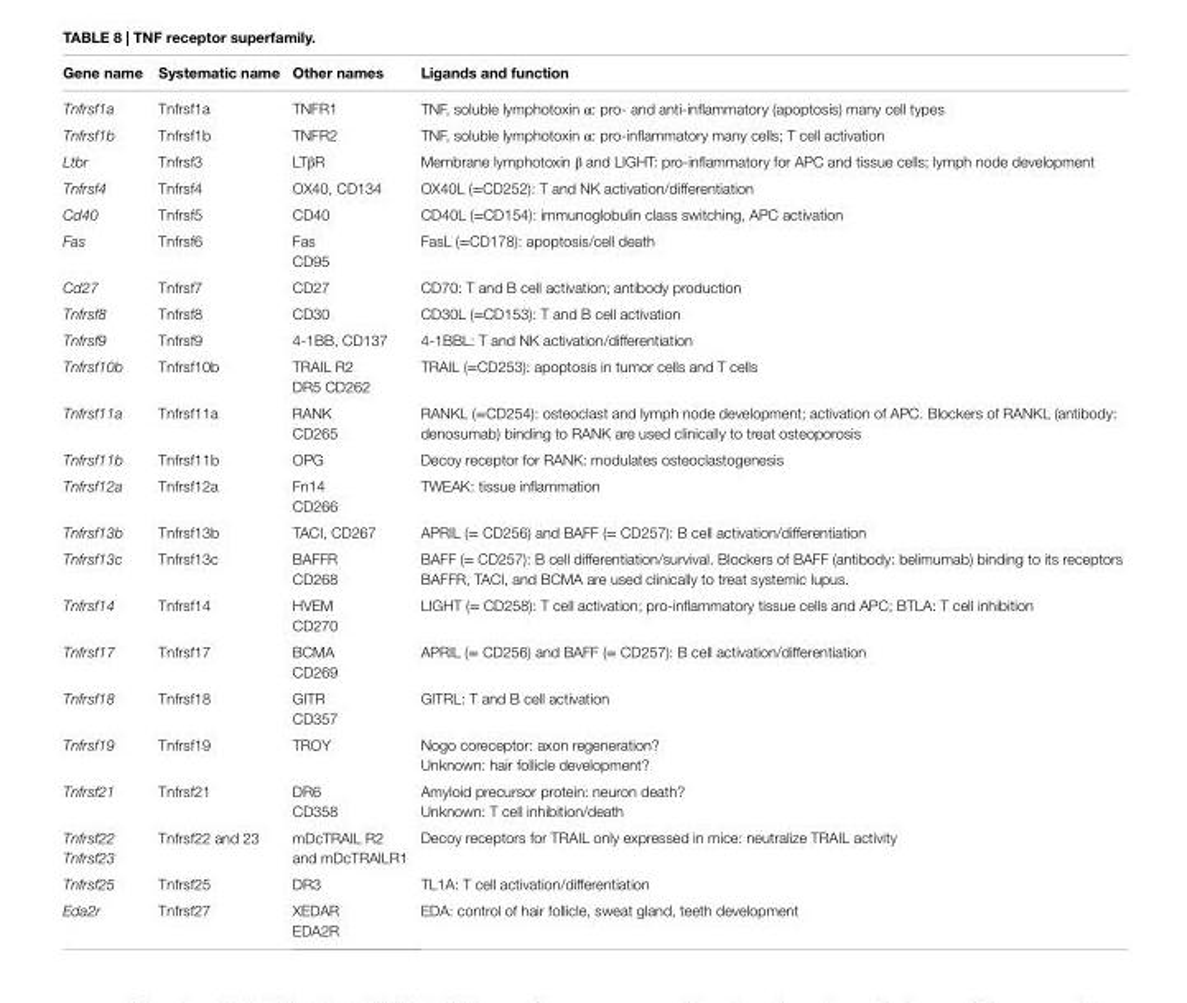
<table><thead><tr><td>Gene name</td><td>Systematic name</td><td>Other names</td><td>Ligands and function</td></tr></thead><tbody><tr><td>Tnfrsf1a</td><td>Tnfrsf1a</td><td>TNFR1</td><td>TNF, soluble lymphotoxin α: pro- and anti-inflammatory (apoptosis) many cell types</td></tr><tr><td>Tnfrsf1b</td><td>Tnfrsf1b</td><td>TNFR2</td><td>TNF, soluble lymphotoxin α: pro-inflammatory many cells; T cell activation</td></tr><tr><td>Ltbr</td><td>Tnfrsf3</td><td>LTβR</td><td>Membrane lymphotoxin β and LIGHT: pro-inflammatory for APC and tissue cells; lymph node development</td></tr><tr><td>Tnfrsf4</td><td>Tnfrsf4</td><td>OX40, CD134</td><td>OX40L (=CD252): T and NK activation/differentiation</td></tr><tr><td>Cd40</td><td>Tnfrsf5</td><td>CD40</td><td>CD40L (=CD154): immunoglobulin class switching, APC activation</td></tr><tr><td>Fas</td><td>Tnfrsf6</td><td>Fas CD95</td><td>FasL (=CD178): apoptosis/cell death</td></tr><tr><td>Cd27</td><td>Tnfrsf7</td><td>CD27</td><td>CD70: T and B cell activation; antibody production</td></tr><tr><td>Tnfrsf8</td><td>Tnfrsf8</td><td>CD30</td><td>CD30L (=CD153): T and B cell activation</td></tr><tr><td>Tnfrsf9</td><td>Tnfrsf9</td><td>4-1BB, CD137</td><td>4-1BBL: T and NK activation/differentiation</td></tr><tr><td>Tnfrsf10b</td><td>Tnfrsf10b</td><td>TRAIL R2 DR5 CD262</td><td>TRAIL (=CD253): apoptosis in tumor cells and T cells</td></tr><tr><td>Tnfrsf11a</td><td>Tnfrsf11a</td><td>RANK CD265</td><td>RANKL (=CD254): osteoclast and lymph node development; activation of APC. Blockers of RANKL (antibody: denosumab) binding to RANK are used clinically to treat osteoporosis</td></tr><tr><td>Tnfrsf11b</td><td>Tnfrsf11b</td><td>OPG</td><td>Decoy receptor for RANK: modulates osteoclastogenesis</td></tr><tr><td>Tnfrsf12a</td><td>Tnfrsf12a</td><td>Fn14 CD266</td><td>TWEAK: tissue inflammation</td></tr><tr><td>Tnfrsf13b</td><td>Tnfrsf13b</td><td>TACI, CD267</td><td>APRIL (= CD256) and BAFF (= CD257): B cell activation/differentiation</td></tr><tr><td>Tnfrsf13c</td><td>Tnfrsf13c</td><td>BAFFR CD268</td><td>BAFF (= CD257): B cell differentiation/survival. Blockers of BAFF (antibody: belimumab) binding to its receptors BAFFR, TACI, and BCMA are used clinically to treat systemic lupus.</td></tr><tr><td>Tnfrsf14</td><td>Tnfrsf14</td><td>HVEM CD270</td><td>LIGHT (= CD258): T cell activation; pro-inflammatory tissue cells and APC; BTLA: T cell inhibition</td></tr><tr><td>Tnfrsf17</td><td>Tnfrsf17</td><td>BCMA CD269</td><td>APRIL (= CD256) and BAFF (= CD257): B cell activation/differentiation</td></tr><tr><td>Tnfrsf18</td><td>Tnfrsf18</td><td>GITR CD357</td><td>GITRL: T and B cell activation</td></tr><tr><td>Tnfrsf19</td><td>Tnfrsf19</td><td>TROY</td><td>Nogo coreceptor: axon regeneration? Unknown: hair follicle development?</td></tr><tr><td>Tnfrsf21</td><td>Tnfrsf21</td><td>DR6 CD358</td><td>Amyloid precursor protein: neuron death? Unknown: T cell inhibition/death</td></tr><tr><td>Tnfrsf22 Tnfrsf23</td><td>Tnfrsf22 and 23</td><td>mDcTRAIL R2 and mDcTRAILR1</td><td>Decoy receptors for TRAIL only expressed in mice: neutralize TRAIL activity</td></tr><tr><td>Tnfrsf25</td><td>Tnfrsf25</td><td>DR3</td><td>TL1A: T cell activation/differentiation</td></tr><tr><td>Eda2r</td><td>Tnfrsf27</td><td>XEDAR EDA2R</td><td>EDA: control of hair follicle, sweat gland, teeth development</td></tr></tbody></table>